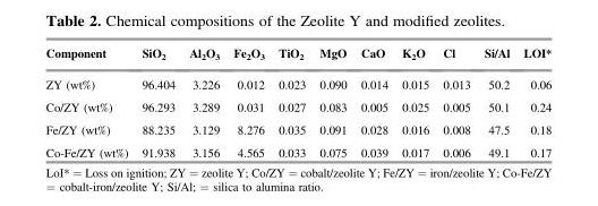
<table><thead><tr><td>Component</td><td>SiO<sub>2</sub></td><td>Al<sub>2</sub>O<sub>3</sub></td><td>Fe<sub>2</sub>O<sub>3</sub></td><td>TiO<sub>2</sub></td><td>MgO</td><td>CaO</td><td>K<sub>2</sub>O</td><td>Cl</td><td>Si/Al</td><td>LOI*</td></tr></thead><tbody><tr><td>ZY (wt%)</td><td>96.404</td><td>3.226</td><td>0.012</td><td>0.023</td><td>0.090</td><td>0.014</td><td>0.015</td><td>0.013</td><td>50.2</td><td>0.06</td></tr><tr><td>Co/ZY (wt%)</td><td>96.293</td><td>3.289</td><td>0.031</td><td>0.027</td><td>0.083</td><td>0.005</td><td>0.025</td><td>0.005</td><td>50.1</td><td>0.24</td></tr><tr><td>Fe/ZY (wt%)</td><td>88.235</td><td>3.129</td><td>8.276</td><td>0.035</td><td>0.091</td><td>0.028</td><td>0.016</td><td>0.008</td><td>47.5</td><td>0.18</td></tr><tr><td>Co-Fe/ZY (wt%)</td><td>91.938</td><td>3.156</td><td>4.565</td><td>0.033</td><td>0.075</td><td>0.039</td><td>0.017</td><td>0.006</td><td>49.1</td><td>0.17</td></tr></tbody></table>